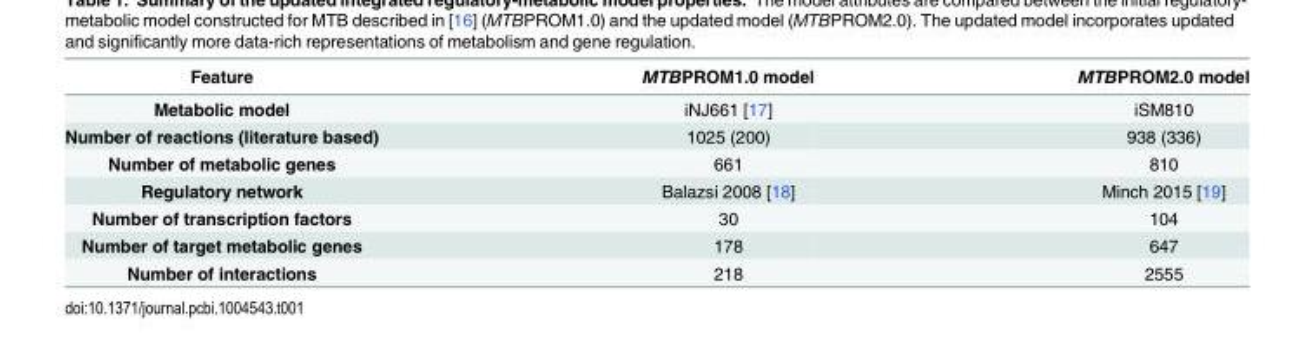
<table><thead><tr><td>Feature</td><td>MTBPROM1.0 model</td><td>MTBPROM2.0 model</td></tr></thead><tbody><tr><td>Metabolic model</td><td>iNJ661 [17]</td><td>iSM810</td></tr><tr><td>Number of reactions (literature based)</td><td>1025 (200)</td><td>938 (336)</td></tr><tr><td>Number of metabolic genes</td><td>661</td><td>810</td></tr><tr><td>Regulatory network</td><td>Balazsi 2008 [18]</td><td>Minch 2015 [19]</td></tr><tr><td>Number of transcription factors</td><td>30</td><td>104</td></tr><tr><td>Number of target metabolic genes</td><td>178</td><td>647</td></tr><tr><td>Number of interactions</td><td>218</td><td>2555</td></tr></tbody></table>